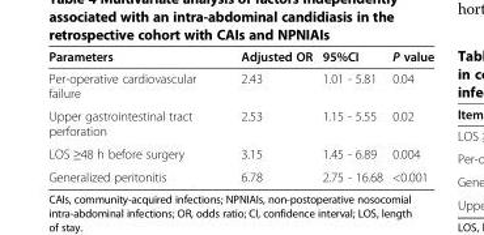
<table><thead><tr><td>Parameters</td><td>Adjusted OR</td><td>95%CI</td><td>P value</td></tr></thead><tbody><tr><td>Per-operative cardiovascular failure</td><td>2.43</td><td>1.01 - 5.81</td><td>0.04</td></tr><tr><td>Upper gastrointestinal tract perforation</td><td>2.53</td><td>1.15 - 5.55</td><td>0.02</td></tr><tr><td>LOS ≥48 h before surgery</td><td>3.15</td><td>1.45 - 6.89</td><td>0.004</td></tr><tr><td>Generalized peritonitis</td><td>6.78</td><td>2.75 - 16.68</td><td>&lt;0.001</td></tr></tbody></table>